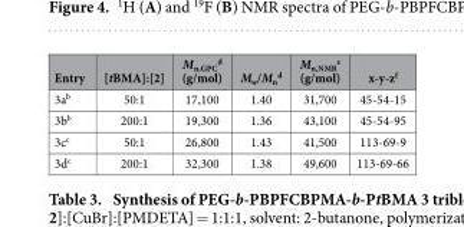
<table><thead><tr><td>Entry</td><td>[tBMA]:[2]</td><td>M<sub>n,GPC</sub> <sup>d</sup> (g/mol)</td><td>M<sub>w</sub>/M<sub>n</sub> <sup>d</sup></td><td>M<sub>n,NMR</sub> <sup>e</sup> (g/mol)</td><td>x-y-z<sup>f</sup></td></tr></thead><tbody><tr><td>3a<sup>b</sup></td><td>50:1</td><td>17,100</td><td>1.40</td><td>31,700</td><td>45-54-15</td></tr><tr><td>3b<sup>b</sup></td><td>200:1</td><td>19,300</td><td>1.36</td><td>43,100</td><td>45-54-95</td></tr><tr><td>3c<sup>c</sup></td><td>50:1</td><td>26,800</td><td>1.43</td><td>41,500</td><td>113-69-9</td></tr><tr><td>3d<sup>c</sup></td><td>200:1</td><td>32,300</td><td>1.38</td><td>49,600</td><td>113-69-66</td></tr></tbody></table>